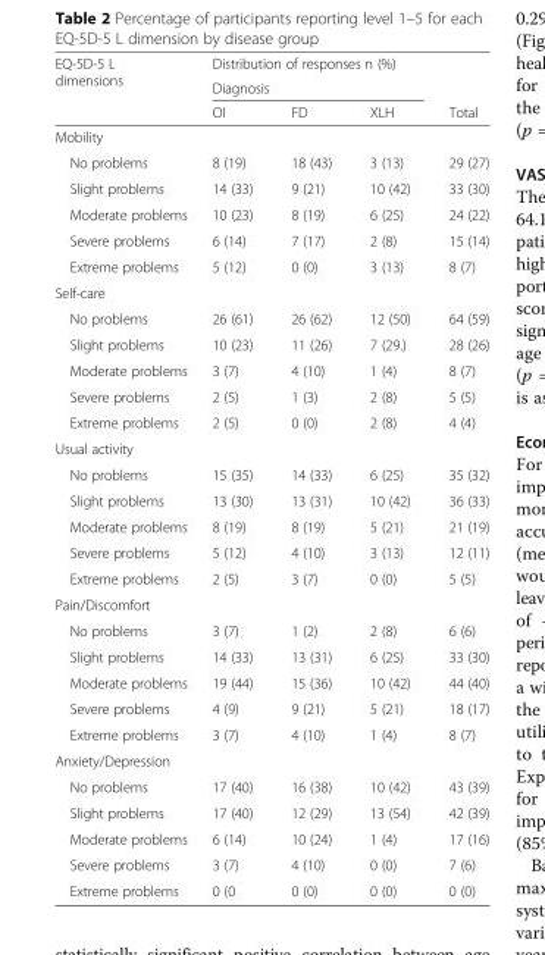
<table><thead><tr><td rowspan="3">EQ-5D-5 L dimensions</td><td rowspan="2" colspan="3">Distribution of responses n (%) Diagnosis</td><td rowspan="3">Total</td></tr><tr></tr><tr><td>OI</td><td>FD</td><td>XLH</td></tr></thead><tbody><tr><td colspan="5">Mobility</td></tr><tr><td>No problems</td><td>8 (19)</td><td>18 (43)</td><td>3 (13)</td><td>29 (27)</td></tr><tr><td>Slight problems</td><td>14 (33)</td><td>9 (21)</td><td>10 (42)</td><td>33 (30)</td></tr><tr><td>Moderate problems</td><td>10 (23)</td><td>8 (19)</td><td>6 (25)</td><td>24 (22)</td></tr><tr><td>Severe problems</td><td>6 (14)</td><td>7 (17)</td><td>2 (8)</td><td>15 (14)</td></tr><tr><td>Extreme problems</td><td>5 (12)</td><td>0 (0)</td><td>3 (13)</td><td>8 (7)</td></tr><tr><td colspan="5">Self-care</td></tr><tr><td>No problems</td><td>26 (61)</td><td>26 (62)</td><td>12 (50)</td><td>64 (59)</td></tr><tr><td>Slight problems</td><td>10 (23)</td><td>11 (26)</td><td>7 (29.)</td><td>28 (26)</td></tr><tr><td>Moderate problems</td><td>3 (7)</td><td>4 (10)</td><td>1 (4)</td><td>8 (7)</td></tr><tr><td>Severe problems</td><td>2 (5)</td><td>1 (3)</td><td>2 (8)</td><td>5 (5)</td></tr><tr><td>Extreme problems</td><td>2 (5)</td><td>0 (0)</td><td>2 (8)</td><td>4 (4)</td></tr><tr><td colspan="5">Usual activity</td></tr><tr><td>No problems</td><td>15 (35)</td><td>14 (33)</td><td>6 (25)</td><td>35 (32)</td></tr><tr><td>Slight problems</td><td>13 (30)</td><td>13 (31)</td><td>10 (42)</td><td>36 (33)</td></tr><tr><td>Moderate problems</td><td>8 (19)</td><td>8 (19)</td><td>5 (21)</td><td>21 (19)</td></tr><tr><td>Severe problems</td><td>5 (12)</td><td>4 (10)</td><td>3 (13)</td><td>12 (11)</td></tr><tr><td>Extreme problems</td><td>2 (5)</td><td>3 (7)</td><td>0 (0)</td><td>5 (5)</td></tr><tr><td colspan="5">Pain/Discomfort</td></tr><tr><td>No problems</td><td>3 (7)</td><td>1 (2)</td><td>2 (8)</td><td>6 (6)</td></tr><tr><td>Slight problems</td><td>14 (33)</td><td>13 (31)</td><td>6 (25)</td><td>33 (30)</td></tr><tr><td>Moderate problems</td><td>19 (44)</td><td>15 (36)</td><td>10 (42)</td><td>44 (40)</td></tr><tr><td>Severe problems</td><td>4 (9)</td><td>9 (21)</td><td>5 (21)</td><td>18 (17)</td></tr><tr><td>Extreme problems</td><td>3 (7)</td><td>4 (10)</td><td>1 (4)</td><td>8 (7)</td></tr><tr><td colspan="5">Anxiety/Depression</td></tr><tr><td>No problems</td><td>17 (40)</td><td>16 (38)</td><td>10 (42)</td><td>43 (39)</td></tr><tr><td>Slight problems</td><td>17 (40)</td><td>12 (29)</td><td>13 (54)</td><td>42 (39)</td></tr><tr><td>Moderate problems</td><td>6 (14)</td><td>10 (24)</td><td>1 (4)</td><td>17 (16)</td></tr><tr><td>Severe problems</td><td>3 (7)</td><td>4 (10)</td><td>0 (0)</td><td>7 (6)</td></tr><tr><td>Extreme problems</td><td>0 (0</td><td>0 (0)</td><td>0 (0)</td><td>0 (0)</td></tr></tbody></table>